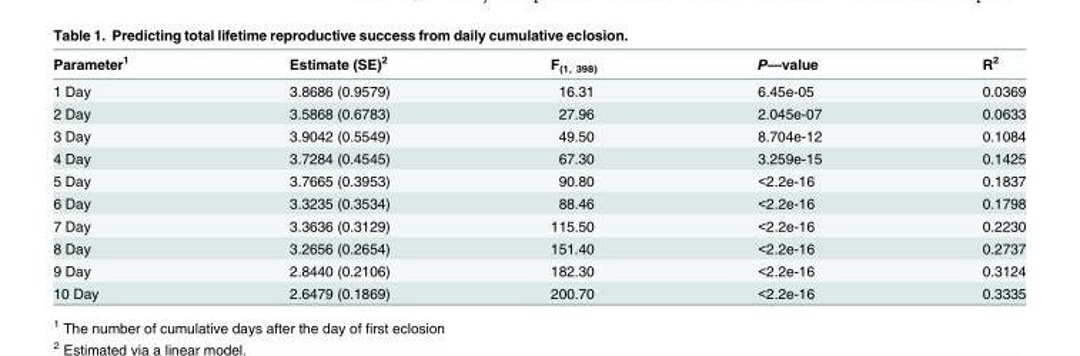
<table><thead><tr><td>Parameter<sup>1</sup></td><td>Estimate (SE)<sup>2</sup></td><td>F<sub>(1, 398)</sub></td><td>P—value</td><td>R<sup>2</sup></td></tr></thead><tbody><tr><td>1 Day</td><td>3.8686 (0.9579)</td><td>16.31</td><td>6.45e-05</td><td>0.0369</td></tr><tr><td>2 Day</td><td>3.5868 (0.6783)</td><td>27.96</td><td>2.045e-07</td><td>0.0633</td></tr><tr><td>3 Day</td><td>3.9042 (0.5549)</td><td>49.50</td><td>8.704e-12</td><td>0.1084</td></tr><tr><td>4 Day</td><td>3.7284 (0.4545)</td><td>67.30</td><td>3.259e-15</td><td>0.1425</td></tr><tr><td>5 Day</td><td>3.7665 (0.3953)</td><td>90.80</td><td>&lt;2.2e-16</td><td>0.1837</td></tr><tr><td>6 Day</td><td>3.3235 (0.3534)</td><td>88.46</td><td>&lt;2.2e-16</td><td>0.1798</td></tr><tr><td>7 Day</td><td>3.3636 (0.3129)</td><td>115.50</td><td>&lt;2.2e-16</td><td>0.2230</td></tr><tr><td>8 Day</td><td>3.2656 (0.2654)</td><td>151.40</td><td>&lt;2.2e-16</td><td>0.2737</td></tr><tr><td>9 Day</td><td>2.8440 (0.2106)</td><td>182.30</td><td>&lt;2.2e-16</td><td>0.3124</td></tr><tr><td>10 Day</td><td>2.6479 (0.1869)</td><td>200.70</td><td>&lt;2.2e-16</td><td>0.3335</td></tr></tbody></table>